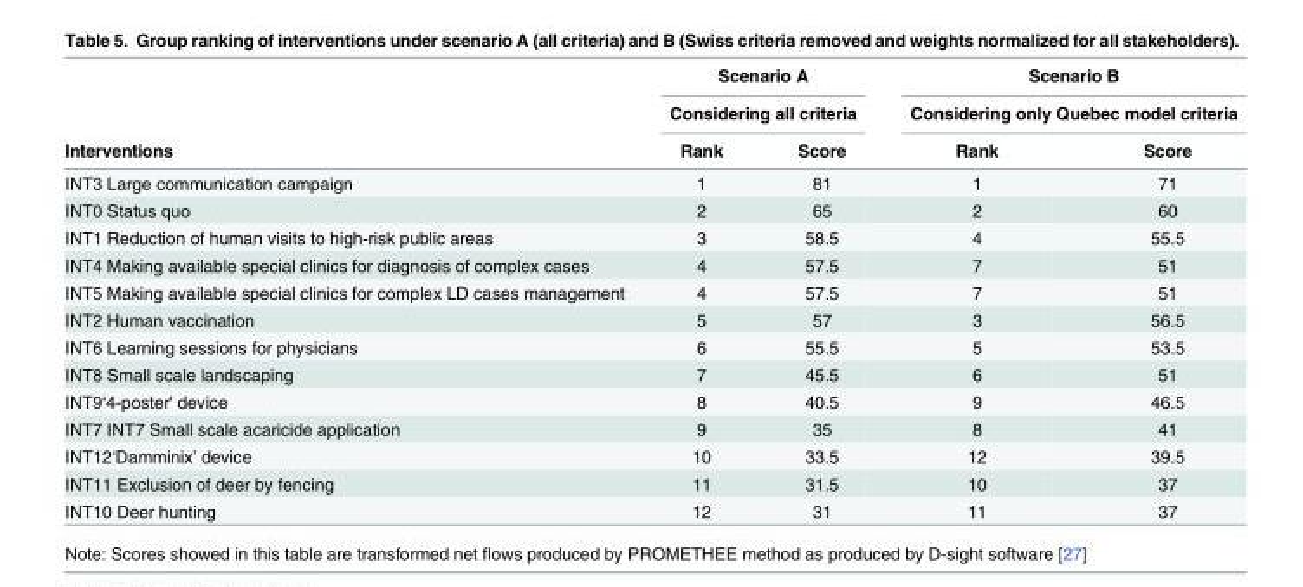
<table><thead><tr><td rowspan="3">Interventions</td><td rowspan="2" colspan="2">Scenario A Considering all criteria</td><td rowspan="2" colspan="2">Scenario B Considering only Quebec model criteria</td></tr><tr></tr><tr><td>Rank</td><td>Score</td><td>Rank</td><td>Score</td></tr></thead><tbody><tr><td>INT3 Large communication campaign</td><td>1</td><td>81</td><td>1</td><td>71</td></tr><tr><td>INT0 Status quo</td><td>2</td><td>65</td><td>2</td><td>60</td></tr><tr><td>INT1 Reduction of human visits to high-risk public areas</td><td>3</td><td>58.5</td><td>4</td><td>55.5</td></tr><tr><td>INT4 Making available special clinics for diagnosis of complex cases</td><td>4</td><td>57.5</td><td>7</td><td>51</td></tr><tr><td>INT5 Making available special clinics for complex LD cases management</td><td>4</td><td>57.5</td><td>7</td><td>51</td></tr><tr><td>INT2 Human vaccination</td><td>5</td><td>57</td><td>3</td><td>56.5</td></tr><tr><td>INT6 Learning sessions for physicians</td><td>6</td><td>55.5</td><td>5</td><td>53.5</td></tr><tr><td>INT8 Small scale landscaping</td><td>7</td><td>45.5</td><td>6</td><td>51</td></tr><tr><td>INT9‘4-poster&#x27; device</td><td>8</td><td>40.5</td><td>9</td><td>46.5</td></tr><tr><td>INT7 INT7 Small scale acaricide application</td><td>9</td><td>35</td><td>8</td><td>41</td></tr><tr><td>INT12‘Damminix’ device</td><td>10</td><td>33.5</td><td>12</td><td>39.5</td></tr><tr><td>INT11 Exclusion of deer by fencing</td><td>11</td><td>31.5</td><td>10</td><td>37</td></tr><tr><td>INT10 Deer hunting</td><td>12</td><td>31</td><td>11</td><td>37</td></tr></tbody></table>